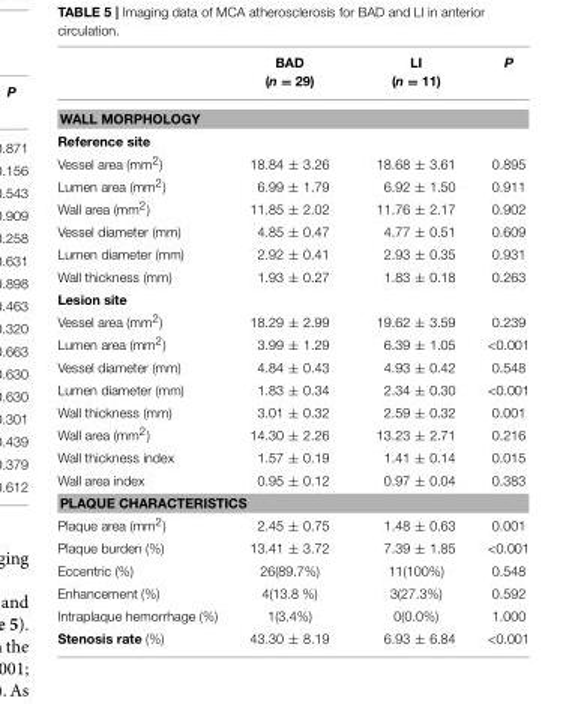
<table><thead><tr><td></td><td>BAD (n = 29)</td><td>LI (n = 11)</td><td>P</td></tr></thead><tbody><tr><td colspan="4">WALL MORPHOLOGY</td></tr><tr><td colspan="4">Reference site</td></tr><tr><td>Vessel area (mm<sup>2</sup>)</td><td>18.84 ± 3.26</td><td>18.68 ± 3.61</td><td>0.895</td></tr><tr><td>Lumen area (mm<sup>2</sup>)</td><td>6.99 ± 1.79</td><td>6.92 ± 1.50</td><td>0.911</td></tr><tr><td>Wall area (mm<sup>2</sup>)</td><td>11.85 ± 2.02</td><td>11.76 ± 2.17</td><td>0.902</td></tr><tr><td>Vessel diameter (mm)</td><td>4.85 ± 0.47</td><td>4.77 ± 0.51</td><td>0.609</td></tr><tr><td>Lumen diameter (mm)</td><td>2.92 ± 0.41</td><td>2.93 ± 0.35</td><td>0.931</td></tr><tr><td>Wall thickness (mm)</td><td>1.93 ± 0.27</td><td>1.83 ± 0.18</td><td>0.263</td></tr><tr><td colspan="4">Lesion site</td></tr><tr><td>Vessel area (mm<sup>2</sup>)</td><td>18.29 ± 2.99</td><td>19.62 ± 3.59</td><td>0.239</td></tr><tr><td>Lumen area (mm<sup>2</sup>)</td><td>3.99 ± 1.29</td><td>6.39 ± 1.05</td><td>&lt;0.001</td></tr><tr><td>Vessel diameter (mm)</td><td>4.84 ± 0.43</td><td>4.93 ± 0.42</td><td>0.548</td></tr><tr><td>Lumen diameter (mm)</td><td>1.83 ± 0.34</td><td>2.34 ± 0.30</td><td>&lt;0.001</td></tr><tr><td>Wall thickness (mm)</td><td>3.01 ± 0.32</td><td>2.59 ± 0.32</td><td>0.001</td></tr><tr><td>Wall area (mm<sup>2</sup>)</td><td>14.30 ± 2.26</td><td>13.23 ± 2.71</td><td>0.216</td></tr><tr><td>Wall thickness index</td><td>1.57 ± 0.19</td><td>1.41 ± 0.14</td><td>0.015</td></tr><tr><td>Wall area index</td><td>0.95 ± 0.12</td><td>0.97 ± 0.04</td><td>0.383</td></tr><tr><td colspan="4">PLAQUE CHARACTERISTICS</td></tr><tr><td>Plaque area (mm<sup>2</sup>)</td><td>2.45 ± 0.75</td><td>1.48 ± 0.63</td><td>0.001</td></tr><tr><td>Plaque burden (%)</td><td>13.41 ± 3.72</td><td>7.39 ± 1.85</td><td>&lt;0.001</td></tr><tr><td>Eccentric (%)</td><td>26(89.7%)</td><td>11(100%)</td><td>0.548</td></tr><tr><td>Enhancement (%)</td><td>4(13.8 %)</td><td>3(27.3%)</td><td>0.592</td></tr><tr><td>Intraplaque hemorrhage (%)</td><td>1(3.4%)</td><td>0(0.0%)</td><td>1.000</td></tr><tr><td>Stenosis rate (%)</td><td>43.30 ± 8.19</td><td>6.93 ± 6.84</td><td>&lt;0.001</td></tr></tbody></table>